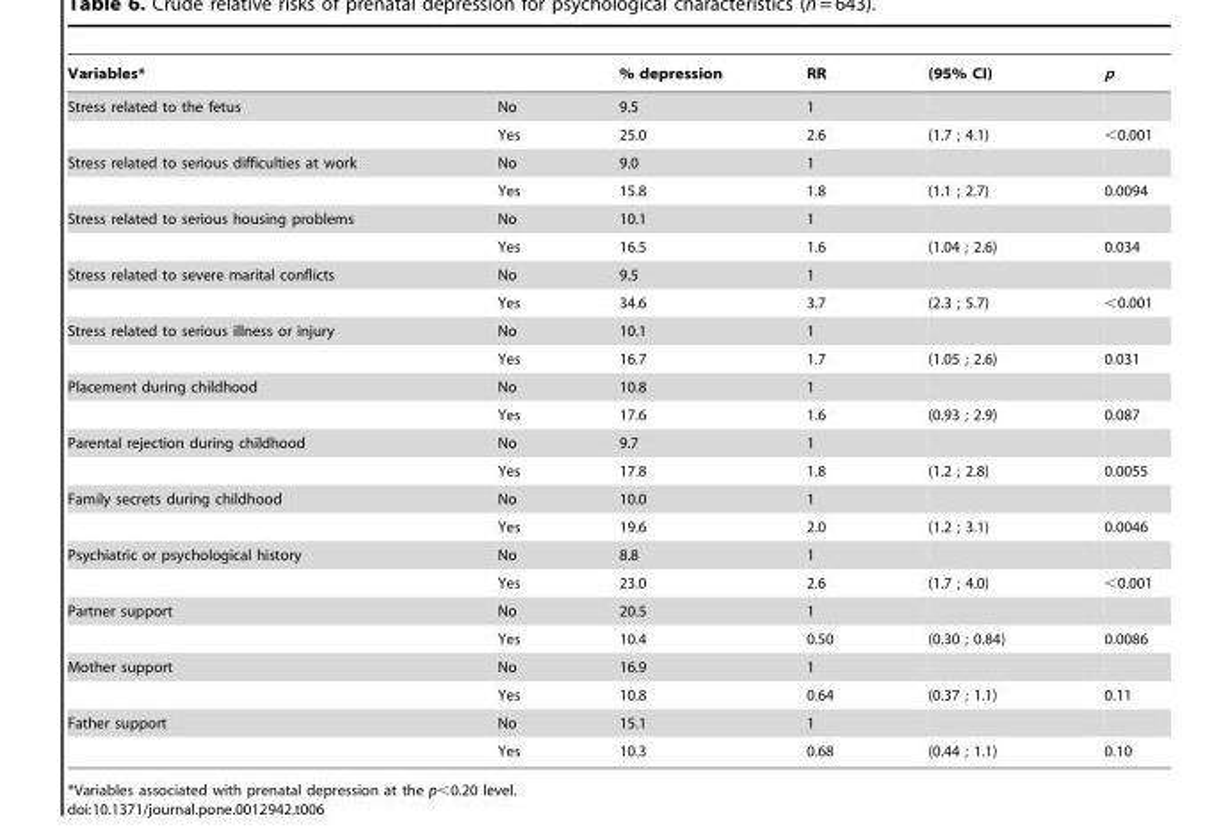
<table><thead><tr><td>Variables*</td><td></td><td>% depression</td><td>RR</td><td>(95% CI)</td><td>p</td></tr></thead><tbody><tr><td rowspan="2">Stress related to the fetus</td><td>No</td><td>9.5</td><td>1</td><td></td><td></td></tr><tr><td>Yes</td><td>25.0</td><td>2.6</td><td>(1.7 ; 4.1)</td><td>&lt;0.001</td></tr><tr><td rowspan="2">Stress related to serious difficulties at work</td><td>No</td><td>9.0</td><td>1</td><td></td><td></td></tr><tr><td>Yes</td><td>15.8</td><td>1.8</td><td>(1.1 ; 2.7)</td><td>0.0094</td></tr><tr><td rowspan="2">Stress related to serious housing problems</td><td>No</td><td>10.1</td><td>1</td><td></td><td></td></tr><tr><td>Yes</td><td>16.5</td><td>1.6</td><td>(1.04 ; 2.6)</td><td>0.034</td></tr><tr><td rowspan="2">Stress related to severe marital conflicts</td><td>No</td><td>9.5</td><td>1</td><td></td><td></td></tr><tr><td>Yes</td><td>34.6</td><td>3.7</td><td>(2.3 ; 5.7)</td><td>&lt;0.001</td></tr><tr><td rowspan="2">Stress related to serious illness or injury</td><td>No</td><td>10.1</td><td>1</td><td></td><td></td></tr><tr><td>Yes</td><td>16.7</td><td>1.7</td><td>(1.05 ; 2.6)</td><td>0.031</td></tr><tr><td rowspan="2">Placement during childhood</td><td>No</td><td>10.8</td><td>1</td><td></td><td></td></tr><tr><td>Yes</td><td>17.6</td><td>1.6</td><td>(0.93 ; 2.9)</td><td>0.087</td></tr><tr><td rowspan="2">Parental rejection during childhood</td><td>No</td><td>9.7</td><td>1</td><td></td><td></td></tr><tr><td>Yes</td><td>17.8</td><td>1.8</td><td>(1.2 ; 2.8)</td><td>0.0055</td></tr><tr><td rowspan="2">Family secrets during childhood</td><td>No</td><td>10.0</td><td>1</td><td></td><td></td></tr><tr><td>Yes</td><td>19.6</td><td>2.0</td><td>(1.2 ; 3.1)</td><td>0.0046</td></tr><tr><td rowspan="2">Psychiatric or psychological history</td><td>No</td><td>8.8</td><td>1</td><td></td><td></td></tr><tr><td>Yes</td><td>23.0</td><td>2.6</td><td>(1.7 ; 4.0)</td><td>&lt;0.001</td></tr><tr><td rowspan="2">Partner support</td><td>No</td><td>20.5</td><td>1</td><td></td><td></td></tr><tr><td>Yes</td><td>10.4</td><td>0.50</td><td>(0.30 ; 0.84)</td><td>0.0086</td></tr><tr><td rowspan="2">Mother support</td><td>No</td><td>16.9</td><td>1</td><td></td><td></td></tr><tr><td>Yes</td><td>10.8</td><td>0.64</td><td>(0.37 ; 1.1)</td><td>0.11</td></tr><tr><td rowspan="2">Father support</td><td>No</td><td>15.1</td><td>1</td><td></td><td></td></tr><tr><td>Yes</td><td>10.3</td><td>0.68</td><td>(0.44 ; 1.1)</td><td>0.10</td></tr></tbody></table>